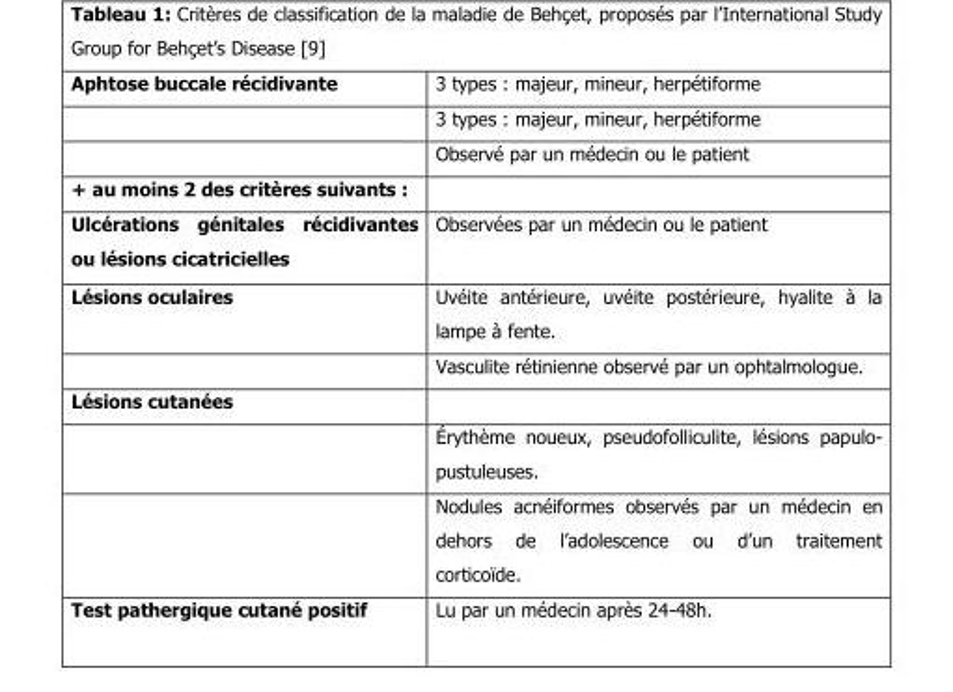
<table><tbody><tr><td rowspan="3">Aphtose buccale récidivante</td><td>3 types : majeur, mineur, herpétiforme</td></tr><tr><td>3 types : majeur, mineur, herpétiforme</td></tr><tr><td>Observé par un médecin ou le patient</td></tr><tr><td colspan="2">+ au moins 2 des critères suivants :</td></tr><tr><td>Ulcérations génitales récidivantes ou lésions cicatricielles</td><td>Observées par un médecin ou le patient</td></tr><tr><td rowspan="2">Lésions oculaires</td><td>Uvéite antérieure, uvéite postérieure, hyalite à la lampe à fente.</td></tr><tr><td>Vasculite rétinienne observé par un ophtalmologue.</td></tr><tr><td colspan="2">Lésions cutanées</td></tr><tr><td></td><td>Érythème noueux, pseudofolliculite, lésions papulo- pustuleuses.</td></tr><tr><td></td><td>Nodules acnéiformes observés par un médecin en dehors de l’adolescence ou d’un traitement corticoïde.</td></tr><tr><td>Test pathergique cutané positif</td><td>Lu par un médecin après 24-48h.</td></tr></tbody></table>